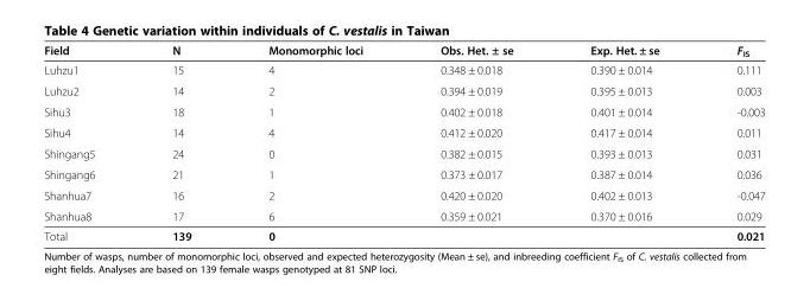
<table><thead><tr><td>Field</td><td>N</td><td>Monomorphic loci</td><td>Obs. Het. ± se</td><td>Exp. Het. ± se</td><td>F<sub>IS</sub></td></tr></thead><tbody><tr><td>Luhzu1</td><td>15</td><td>4</td><td>0.348 ± 0.018</td><td>0.390 ± 0.014</td><td>0.111</td></tr><tr><td>Luhzu2</td><td>14</td><td>2</td><td>0.394 ± 0.019</td><td>0.395 ± 0.013</td><td>0.003</td></tr><tr><td>Sihu3</td><td>18</td><td>1</td><td>0.402 ± 0.018</td><td>0.401 ± 0.014</td><td>-0.003</td></tr><tr><td>Sihu4</td><td>14</td><td>4</td><td>0.412 ± 0.020</td><td>0.417 ± 0.014</td><td>0.011</td></tr><tr><td>Shingang5</td><td>24</td><td>0</td><td>0.382 ± 0.015</td><td>0.393 ± 0.013</td><td>0.031</td></tr><tr><td>Shingang6</td><td>21</td><td>1</td><td>0.373 ± 0.017</td><td>0.387 ± 0.014</td><td>0.036</td></tr><tr><td>Shanhua7</td><td>16</td><td>2</td><td>0.420 ± 0.020</td><td>0.402 ± 0.013</td><td>-0.047</td></tr><tr><td>Shanhua8</td><td>17</td><td>6</td><td>0.359 ± 0.021</td><td>0.370 ± 0.016</td><td>0.029</td></tr><tr><td>Total</td><td>139</td><td>0</td><td></td><td></td><td>0.021</td></tr></tbody></table>